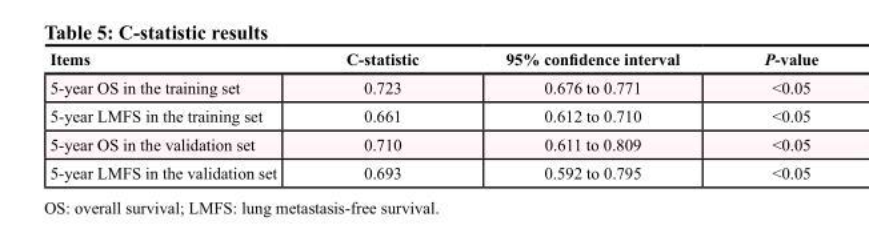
<table><thead><tr><td>Items</td><td>C-statistic</td><td>95% confidence interval</td><td>P-value</td></tr></thead><tbody><tr><td>5-year OS in the training set</td><td>0.723</td><td>0.676 to 0.771</td><td>&lt;0.05</td></tr><tr><td>5-year LMFS in the training set</td><td>0.661</td><td>0.612 to 0.710</td><td>&lt;0.05</td></tr><tr><td>5-year OS in the validation set</td><td>0.710</td><td>0.611 to 0.809</td><td>&lt;0.05</td></tr><tr><td>5-year LMFS in the validation set</td><td>0.693</td><td>0.592 to 0.795</td><td>&lt;0.05</td></tr></tbody></table>